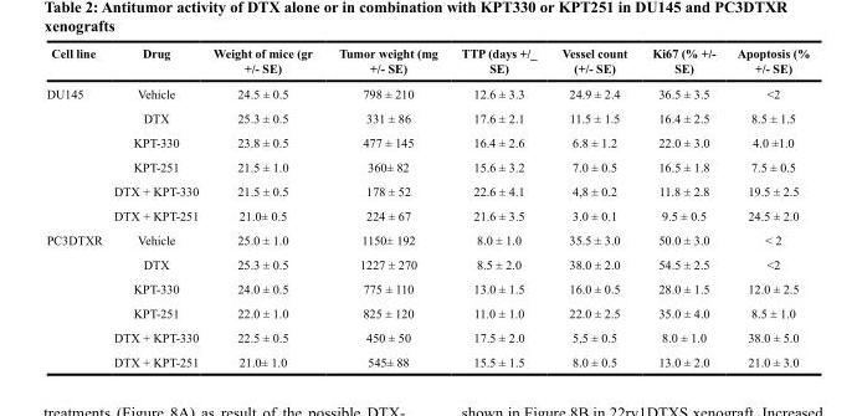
<table><thead><tr><td>Cell line</td><td>Drug</td><td>Weight of mice (gr +/- SE)</td><td>Tumor weight (mg +/- SE)</td><td>TTP (days +/_ SE)</td><td>Vessel count (+/- SE)</td><td>Ki67 (% +/- SE)</td><td>Apoptosis (% +/- SE)</td></tr></thead><tbody><tr><td rowspan="6">DU145</td><td>Vehicle</td><td>24.5 ± 0.5</td><td>798 ± 210</td><td>12.6 ± 3.3</td><td>24.9 ± 2.4</td><td>36.5 ± 3.5</td><td>&lt;2</td></tr><tr><td>DTX</td><td>25.3 ± 0.5</td><td>331 ± 86</td><td>17.6 ± 2.1</td><td>11.5 ± 1.5</td><td>16.4 ± 2.5</td><td>8.5 ± 1.5</td></tr><tr><td>KPT-330</td><td>23.8 ± 0.5</td><td>477 ± 145</td><td>16.4 ± 2.6</td><td>6.8 ± 1.2</td><td>22.0 ± 3.0</td><td>4.0 ±1.0</td></tr><tr><td>KPT-251</td><td>21.5 ± 1.0</td><td>360± 82</td><td>15.6 ± 3.2</td><td>7.0 ± 0.5</td><td>16.5 ± 1.8</td><td>7.5 ± 0.5</td></tr><tr><td>DTX + KPT-330</td><td>21.5 ± 0.5</td><td>178 ± 52</td><td>22.6 ± 4.1</td><td>4,8 ± 0.2</td><td>11.8 ± 2.8</td><td>19.5 ± 2.5</td></tr><tr><td>DTX + KPT-251</td><td>21.0± 0.5</td><td>224 ± 67</td><td>21.6 ± 3.5</td><td>3.0 ± 0.1</td><td>9.5 ± 0.5</td><td>24.5 ± 2.0</td></tr><tr><td rowspan="6">PC3DTXR</td><td>Vehicle</td><td>25.0 ± 1.0</td><td>1150± 192</td><td>8.0 ± 1.0</td><td>35.5 ± 3.0</td><td>50.0 ± 3.0</td><td>&lt; 2</td></tr><tr><td>DTX</td><td>25.3 ± 0.5</td><td>1227 ± 270</td><td>8.5 ± 2.0</td><td>38.0 ± 2.0</td><td>54.5 ± 2.5</td><td>&lt;2</td></tr><tr><td>KPT-330</td><td>24.0 ± 0.5</td><td>775 ± 110</td><td>13.0 ± 1.5</td><td>16.0 ± 0.5</td><td>28.0 ± 1.5</td><td>12.0 ± 2.5</td></tr><tr><td>KPT-251</td><td>22.0 ± 1.0</td><td>825 ± 120</td><td>11.0 ± 1.0</td><td>22.0 ± 2.5</td><td>35.0 ± 4.0</td><td>8.5 ± 1.0</td></tr><tr><td>DTX + KPT-330</td><td>22.5 ± 0.5</td><td>450 ± 50</td><td>17.5 ± 2.0</td><td>5,5 ± 0.5</td><td>8.0 ± 1.0</td><td>38.0 ± 5.0</td></tr><tr><td>DTX + KPT-251</td><td>21.0± 1.0</td><td>545± 88</td><td>15.5 ± 1.5</td><td>8.0 ± 0.5</td><td>13.0 ± 2.0</td><td>21.0 ± 3.0</td></tr></tbody></table>